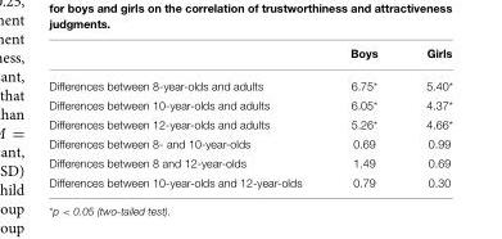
<table><thead><tr><td></td><td>Boys</td><td>Girls</td></tr></thead><tbody><tr><td>Differences between 8-year-olds and adults</td><td>6.75*</td><td>5.40*</td></tr><tr><td>Differences between 10-year-olds and adults</td><td>6.05*</td><td>4.37*</td></tr><tr><td>Differences between 12-year-olds and adults</td><td>5.26*</td><td>4.66*</td></tr><tr><td>Differences between 8- and 10-year-olds</td><td>0.69</td><td>0.99</td></tr><tr><td>Differences between 8 and 12-year-olds</td><td>1.49</td><td>0.69</td></tr><tr><td>Differences between 10-year-olds and 12-year-olds</td><td>0.79</td><td>0.30</td></tr></tbody></table>